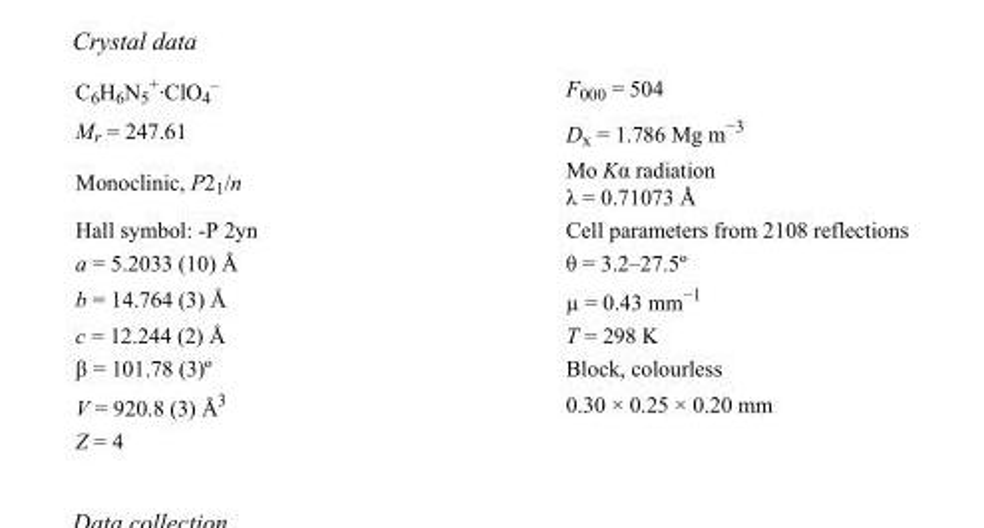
<table><tbody><tr><td>C<sub>6</sub>H<sub>6</sub>N<sub>5</sub> <sup>+</sup>·ClO<sub>4</sub> <sup>–</sup></td><td>F000 = 504</td></tr><tr><td>M<sub>r</sub> = 247.61</td><td>D<sub>x</sub> = 1.786 Mg m<sup>−3</sup></td></tr><tr><td>Monoclinic, P2<sub>1</sub>/n</td><td>Mo Kα radiation λ = 0.71073 Å</td></tr><tr><td>Hall symbol: -P 2yn</td><td>Cell parameters from 2108 reflections</td></tr><tr><td>a = 5.2033 (10) Å</td><td>θ = 3.2–27.5º</td></tr><tr><td>b = 14.764 (3) Å</td><td>µ = 0.43 mm<sup>−1</sup></td></tr><tr><td>c = 12.244 (2) Å</td><td>T = 298 K</td></tr><tr><td>β = 101.78 (3)º</td><td>Block, colourless</td></tr><tr><td>V = 920.8 (3) Å<sup>3</sup></td><td>0.30 × 0.25 × 0.20 mm</td></tr><tr><td>Z = 4</td><td></td></tr></tbody></table>